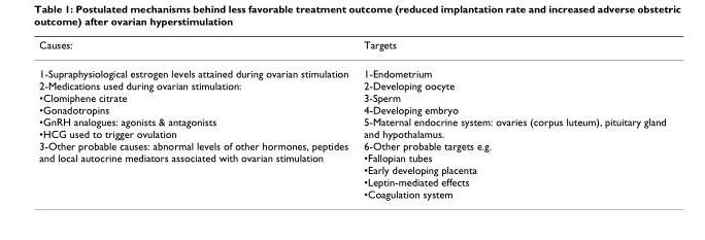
<table><thead><tr><td>Causes:</td><td>Targets</td></tr></thead><tbody><tr><td>1-Supraphysiological estrogen levels attained during ovarian stimulation 2-Medications used during ovarian stimulation: •Clomiphene citrate •Gonadotropins •GnRH analogues: agonists &amp; antagonists •HCG used to trigger ovulation 3-Other probable causes: abnormal levels of other hormones, peptides and local autocrine mediators associated with ovarian stimulation</td><td>1-Endometrium 2-Developing oocyte 3-Sperm 4-Developing embryo 5-Maternal endocrine system: ovaries (corpus luteum), pituitary gland and hypothalamus. 6-Other probable targets e.g. •Fallopian tubes •Early developing placenta •Leptin-mediated effects •Coagulation system</td></tr></tbody></table>